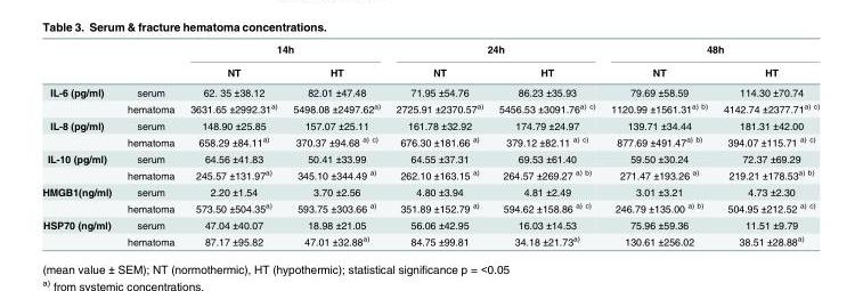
<table><thead><tr><td rowspan="2"></td><td rowspan="2"></td><td colspan="2">14h</td><td colspan="2">24h</td><td colspan="2">48h</td></tr><tr><td>NT</td><td>HT</td><td>NT</td><td>HT</td><td>NT</td><td>HT</td></tr></thead><tbody><tr><td rowspan="2">IL-6 (pg/ml)</td><td>serum</td><td>62. 35 ±38.12</td><td>82.01 ±47.48</td><td>71.95 ±54.76</td><td>86.23 ±35.93</td><td>79.69 ±58.59</td><td>114.30 ±70.74</td></tr><tr><td>hematoma</td><td>3631.65 ±2992.31<sup>a)</sup></td><td>5498.08 ±2497.62<sup>a)</sup></td><td>2725.91 ±2370.57<sup>a)</sup></td><td>5456.53 ±3091.76<sup>a) c)</sup></td><td>1120.99 ±1561.31<sup>a) b)</sup></td><td>4142.74 ±2377.71<sup>a) c)</sup></td></tr><tr><td rowspan="2">IL-8 (pg/ml)</td><td>serum</td><td>148.90 ±25.85</td><td>157.07 ±25.11</td><td>161.78 ±32.92</td><td>174.79 ±24.97</td><td>139.71 ±34.44</td><td>181.31 ±42.00</td></tr><tr><td>hematoma</td><td>658.29 ±84.11<sup>a)</sup></td><td>370.37 ±94.68 <sup>a) c)</sup></td><td>676.30 ±181.66 <sup>a)</sup></td><td>379.12 ±82.11 <sup>a) c)</sup></td><td>877.69 ±491.47<sup>a) b)</sup></td><td>394.07 ±115.71 <sup>a) c)</sup></td></tr><tr><td rowspan="2">IL-10 (pg/ml)</td><td>serum</td><td>64.56 ±41.83</td><td>50.41 ±33.99</td><td>64.55 ±37.31</td><td>69.53 ±61.40</td><td>59.50 ±30.24</td><td>72.37 ±69.29</td></tr><tr><td>hematoma</td><td>245.57 ±131.97<sup>a)</sup></td><td>345.10 ±344.49 <sup>a)</sup></td><td>262.10 ±163.15 <sup>a)</sup></td><td>264.57 ±269.27 <sup>a) b)</sup></td><td>271.47 ±193.26 <sup>a)</sup></td><td>219.21 ±178.53<sup>a) b)</sup></td></tr><tr><td rowspan="2">HMGB1(ng/ml)</td><td>serum</td><td>2.20 ±1.54</td><td>3.70 ±2.56</td><td>4.80 ±3.94</td><td>4.81 ±2.49</td><td>3.01 ±3.21</td><td>4.73 ±2.30</td></tr><tr><td>hematoma</td><td>573.50 ±504.35<sup>a)</sup></td><td>593.75 ±303.66 <sup>a)</sup></td><td>351.89 ±152.79 <sup>a)</sup></td><td>594.62 ±158.86 <sup>a) c)</sup></td><td>246.79 ±135.00 <sup>a) b)</sup></td><td>504.95 ±212.52 <sup>a) c)</sup></td></tr><tr><td rowspan="2">HSP70 (ng/ml)</td><td>serum</td><td>47.04 ±40.07</td><td>18.98 ±21.05</td><td>56.06 ±42.95</td><td>16.03 ±14.53</td><td>75.96 ±59.36</td><td>11.51 ±9.79</td></tr><tr><td>hematoma</td><td>87.17 ±95.82</td><td>47.01 ±32.88<sup>a)</sup></td><td>84.75 ±99.81</td><td>34.18 ±21.73<sup>a)</sup></td><td>130.61 ±256.02</td><td>38.51 ±28.88<sup>a)</sup></td></tr></tbody></table>